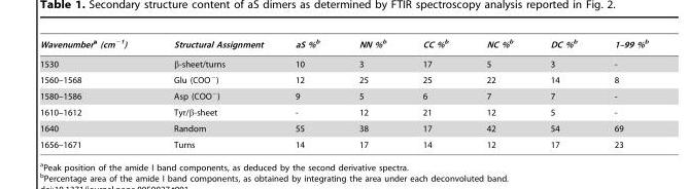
<table><thead><tr><td>Wavenumbera (cm<sup>−1</sup>)</td><td>Structural Assignment</td><td>aS %b</td><td>NN %b</td><td>CC %b</td><td>NC %b</td><td>DC %b</td><td>1–99 %b</td></tr></thead><tbody><tr><td>1530</td><td>β-sheet/turns</td><td>10</td><td>3</td><td>17</td><td>5</td><td>3</td><td>-</td></tr><tr><td>1560–1568</td><td>Glu (COO<sup>−</sup>)</td><td>12</td><td>25</td><td>25</td><td>22</td><td>14</td><td>8</td></tr><tr><td>1580–1586</td><td>Asp (COO<sup>−</sup>)</td><td>9</td><td>5</td><td>6</td><td>7</td><td>7</td><td>-</td></tr><tr><td>1610–1612</td><td>Tyr/β-sheet</td><td>-</td><td>12</td><td>21</td><td>12</td><td>5</td><td>-</td></tr><tr><td>1640</td><td>Random</td><td>55</td><td>38</td><td>17</td><td>42</td><td>54</td><td>69</td></tr><tr><td>1656–1671</td><td>Turns</td><td>14</td><td>17</td><td>14</td><td>12</td><td>17</td><td>23</td></tr></tbody></table>